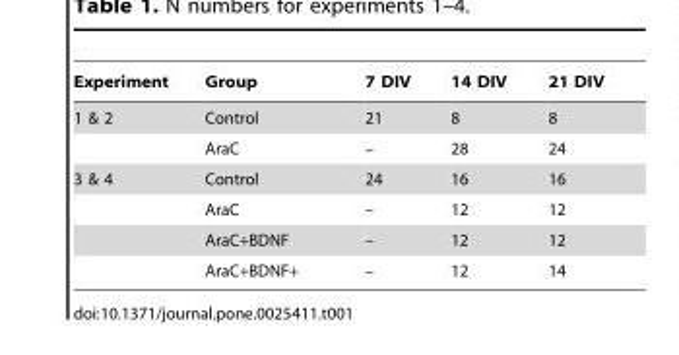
<table><thead><tr><td>Experiment</td><td>Group</td><td>7 DIV</td><td>14 DIV</td><td>21 DIV</td></tr></thead><tbody><tr><td rowspan="2">1 &amp; 2</td><td>Control</td><td>21</td><td>8</td><td>8</td></tr><tr><td>AraC</td><td>–</td><td>28</td><td>24</td></tr><tr><td rowspan="4">3 &amp; 4</td><td>Control</td><td>24</td><td>16</td><td>16</td></tr><tr><td>AraC</td><td>–</td><td>12</td><td>12</td></tr><tr><td>AraC+BDNF</td><td>–</td><td>12</td><td>12</td></tr><tr><td>AraC+BDNF+</td><td>–</td><td>12</td><td>14</td></tr></tbody></table>